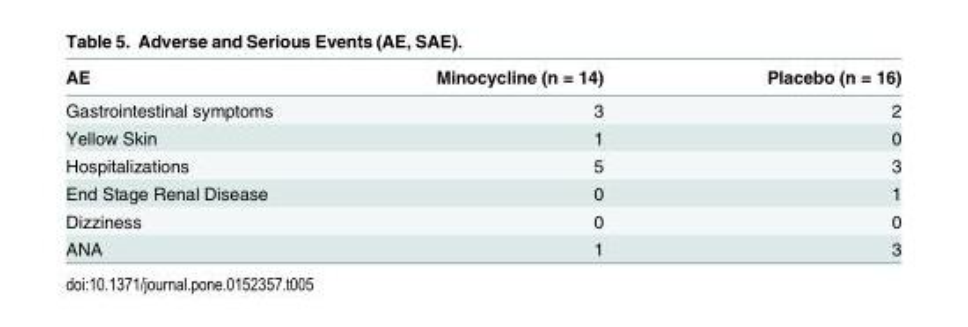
<table><thead><tr><td>AE</td><td>Minocycline (n = 14)</td><td>Placebo (n = 16)</td></tr></thead><tbody><tr><td>Gastrointestinal symptoms</td><td>3</td><td>2</td></tr><tr><td>Yellow Skin</td><td>1</td><td>0</td></tr><tr><td>Hospitalizations</td><td>5</td><td>3</td></tr><tr><td>End Stage Renal Disease</td><td>0</td><td>1</td></tr><tr><td>Dizziness</td><td>0</td><td>0</td></tr><tr><td>ANA</td><td>1</td><td>3</td></tr></tbody></table>